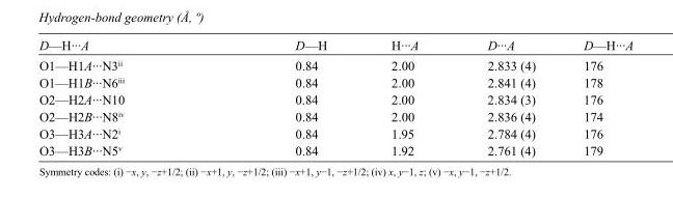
<table><tbody><tr><td>D—H···A</td><td>D—H</td><td>H···A</td><td>D···A</td><td>D—H···A</td></tr><tr><td>O1—H1A···N3<sup>ii</sup></td><td>0.84</td><td>2.00</td><td>2.833 (4)</td><td>176</td></tr><tr><td>O1—H1B···N6<sup>iii</sup></td><td>0.84</td><td>2.00</td><td>2.841 (4)</td><td>178</td></tr><tr><td>O2—H2A···N10</td><td>0.84</td><td>2.00</td><td>2.834 (3)</td><td>176</td></tr><tr><td>O2—H2B···N8<sup>iv</sup></td><td>0.84</td><td>2.00</td><td>2.836 (4)</td><td>174</td></tr><tr><td>O3—H3A···N2<sup>i</sup></td><td>0.84</td><td>1.95</td><td>2.784 (4)</td><td>176</td></tr><tr><td>O3—H3B···N5<sup>v</sup></td><td>0.84</td><td>1.92</td><td>2.761 (4)</td><td>179</td></tr></tbody></table>